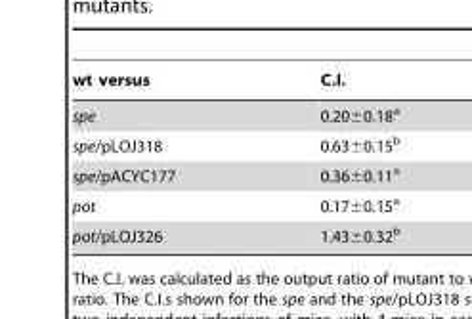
<table><thead><tr><td>wt versus</td><td>C.I.</td></tr></thead><tbody><tr><td>spe</td><td>0.20±0.18<sup>a</sup></td></tr><tr><td>spe/pLOJ318</td><td>0.63±0.15<sup>b</sup></td></tr><tr><td>spe/pACYC177</td><td>0.36±0.11<sup>a</sup></td></tr><tr><td>pot</td><td>0.17±0.15<sup>a</sup></td></tr><tr><td>pot/pLOJ326</td><td>1.43±0.32<sup>b</sup></td></tr></tbody></table>